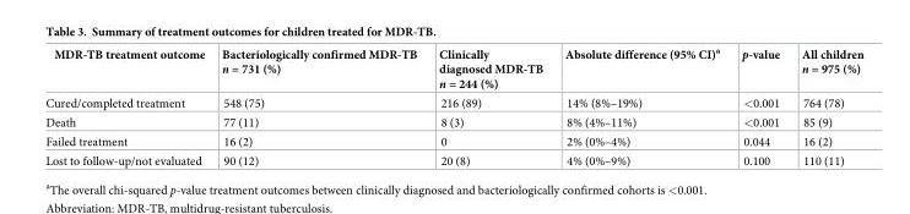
<table><thead><tr><td>MDR-TB treatment outcome</td><td>Bacteriologically confirmed MDR-TB n = 731 (%)</td><td>Clinically diagnosed MDR-TB n = 244 (%)</td><td>Absolute difference (95% CI)<sup>a</sup></td><td>p-value</td><td>All children n = 975 (%)</td></tr></thead><tbody><tr><td>Cured/completed treatment</td><td>548 (75)</td><td>216 (89)</td><td>14% (8%–19%)</td><td>&lt;0.001</td><td>764 (78)</td></tr><tr><td>Death</td><td>77 (11)</td><td>8 (3)</td><td>8% (4%–11%)</td><td>&lt;0.001</td><td>85 (9)</td></tr><tr><td>Failed treatment</td><td>16 (2)</td><td>0</td><td>2% (0%–4%)</td><td>0.044</td><td>16 (2)</td></tr><tr><td>Lost to follow-up/not evaluated</td><td>90 (12)</td><td>20 (8)</td><td>4% (0%–9%)</td><td>0.100</td><td>110 (11)</td></tr></tbody></table>